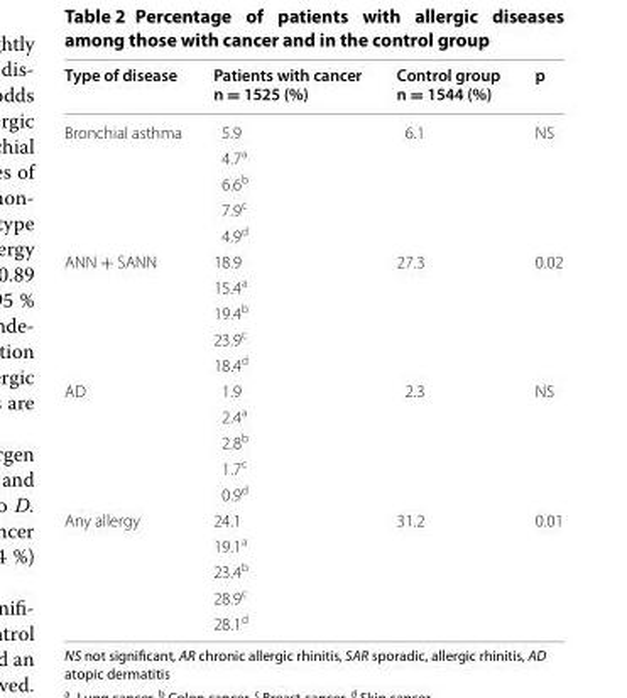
<table><thead><tr><td>Type of disease</td><td>Patients with cancer n = 1525 (%)</td><td>Control group n = 1544 (%)</td><td>p</td></tr></thead><tbody><tr><td rowspan="5">Bronchial asthma</td><td>5.9</td><td rowspan="5">6.1</td><td rowspan="5">NS</td></tr><tr><td>4.7<sup>a</sup></td></tr><tr><td>6.6<sup>b</sup></td></tr><tr><td>7.9<sup>c</sup></td></tr><tr><td>4.9<sup>d</sup></td></tr><tr><td rowspan="5">ANN + SANN</td><td>18.9</td><td rowspan="5">27.3</td><td rowspan="5">0.02</td></tr><tr><td>15.4<sup>a</sup></td></tr><tr><td>19.4<sup>b</sup></td></tr><tr><td>23.9<sup>c</sup></td></tr><tr><td>18.4<sup>d</sup></td></tr><tr><td rowspan="5">AD</td><td>1.9</td><td rowspan="5">2.3</td><td rowspan="5">NS</td></tr><tr><td>2.4<sup>a</sup></td></tr><tr><td>2.8<sup>b</sup></td></tr><tr><td>1.7<sup>c</sup></td></tr><tr><td>0.9<sup>d</sup></td></tr><tr><td rowspan="5">Any allergy</td><td>24.1</td><td rowspan="5">31.2</td><td rowspan="5">0.01</td></tr><tr><td>19.1<sup>a</sup></td></tr><tr><td>23.4<sup>b</sup></td></tr><tr><td>28.9<sup>c</sup></td></tr><tr><td>28.1<sup>d</sup></td></tr></tbody></table>